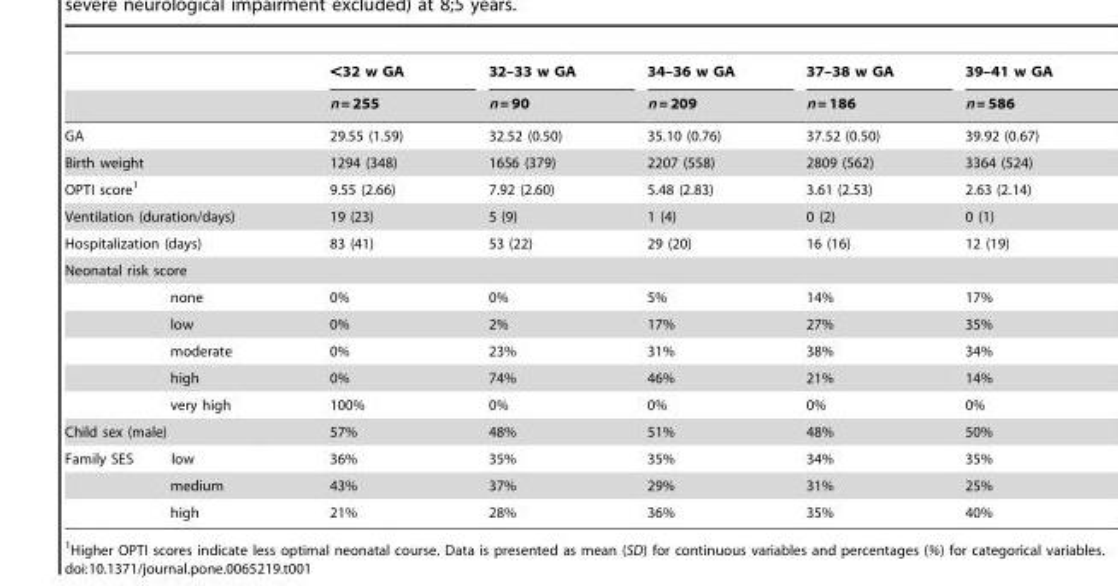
<table><thead><tr><td rowspan="2"></td><td rowspan="2"></td><td rowspan="2">&lt;32 w GA n = 255</td><td rowspan="2">32–33 w GA n = 90</td><td rowspan="2">34–36 w GA n = 209</td><td rowspan="2">37–38 w GA n = 186</td><td rowspan="2">39–41 w GA n = 586</td></tr><tr></tr></thead><tbody><tr><td colspan="2">GA</td><td>29.55 (1.59)</td><td>32.52 (0.50)</td><td>35.10 (0.76)</td><td>37.52 (0.50)</td><td>39.92 (0.67)</td></tr><tr><td colspan="2">Birth weight</td><td>1294 (348)</td><td>1656 (379)</td><td>2207 (558)</td><td>2809 (562)</td><td>3364 (524)</td></tr><tr><td colspan="2">OPTI score<sup>1</sup></td><td>9.55 (2.66)</td><td>7.92 (2.60)</td><td>5.48 (2.83)</td><td>3.61 (2.53)</td><td>2.63 (2.14)</td></tr><tr><td colspan="2">Ventilation (duration/days)</td><td>19 (23)</td><td>5 (9)</td><td>1 (4)</td><td>0 (2)</td><td>0 (1)</td></tr><tr><td colspan="2">Hospitalization (days)</td><td>83 (41)</td><td>53 (22)</td><td>29 (20)</td><td>16 (16)</td><td>12 (19)</td></tr><tr><td colspan="7">Neonatal risk score</td></tr><tr><td colspan="2">none</td><td>0%</td><td>0%</td><td>5%</td><td>14%</td><td>17%</td></tr><tr><td colspan="2">low</td><td>0%</td><td>2%</td><td>17%</td><td>27%</td><td>35%</td></tr><tr><td colspan="2">moderate</td><td>0%</td><td>23%</td><td>31%</td><td>38%</td><td>34%</td></tr><tr><td colspan="2">high</td><td>0%</td><td>74%</td><td>46%</td><td>21%</td><td>14%</td></tr><tr><td colspan="2">very high</td><td>100%</td><td>0%</td><td>0%</td><td>0%</td><td>0%</td></tr><tr><td colspan="2">Child sex (male)</td><td>57%</td><td>48%</td><td>51%</td><td>48%</td><td>50%</td></tr><tr><td>Family SES</td><td>low</td><td>36%</td><td>35%</td><td>35%</td><td>34%</td><td>35%</td></tr><tr><td colspan="2">medium</td><td>43%</td><td>37%</td><td>29%</td><td>31%</td><td>25%</td></tr><tr><td colspan="2">high</td><td>21%</td><td>28%</td><td>36%</td><td>35%</td><td>40%</td></tr></tbody></table>